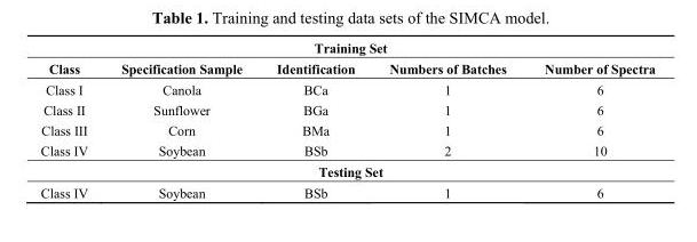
<table><thead><tr><td colspan="5">Training Set</td></tr><tr><td>Class</td><td>Specification Sample</td><td>Identification</td><td>Numbers of Batches</td><td>Number of Spectra</td></tr></thead><tbody><tr><td>Class I</td><td>Canola</td><td>BCa</td><td>1</td><td>6</td></tr><tr><td>Class II</td><td>Sunflower</td><td>BGa</td><td>1</td><td>6</td></tr><tr><td>Class III</td><td>Corn</td><td>BMa</td><td>1</td><td>6</td></tr><tr><td>Class IV</td><td>Soybean</td><td>BSb</td><td>2</td><td>10</td></tr><tr><td colspan="5">Testing Set</td></tr><tr><td>Class IV</td><td>Soybean</td><td>BSb</td><td>1</td><td>6</td></tr></tbody></table>